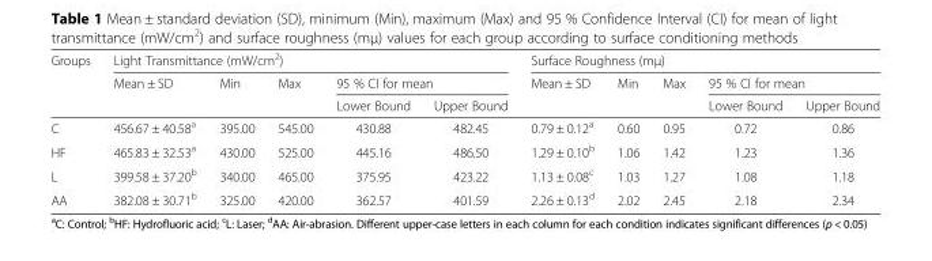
<table><thead><tr><td rowspan="3">Groups</td><td colspan="5">Light Transmittance (mW/cm<sup>2</sup>)</td><td colspan="5">Surface Roughness (mμ)</td></tr><tr><td rowspan="2">Mean ± SD</td><td rowspan="2">Min</td><td rowspan="2">Max</td><td colspan="2">95 % CI for mean</td><td rowspan="2">Mean ± SD</td><td rowspan="2">Min</td><td rowspan="2">Max</td><td colspan="2">95 % CI for mean</td></tr><tr><td>Lower Bound</td><td>Upper Bound</td><td>Lower Bound</td><td>Upper Bound</td></tr></thead><tbody><tr><td>C</td><td>456.67 ± 40.58<sup>a</sup></td><td>395.00</td><td>545.00</td><td>430.88</td><td>482.45</td><td>0.79 ± 0.12<sup>a</sup></td><td>0.60</td><td>0.95</td><td>0.72</td><td>0.86</td></tr><tr><td>HF</td><td>465.83 ± 32.53<sup>a</sup></td><td>430.00</td><td>525.00</td><td>445.16</td><td>486.50</td><td>1.29 ± 0.10<sup>b</sup></td><td>1.06</td><td>1.42</td><td>1.23</td><td>1.36</td></tr><tr><td>L</td><td>399.58 ± 37.20<sup>b</sup></td><td>340.00</td><td>465.00</td><td>375.95</td><td>423.22</td><td>1.13 ± 0.08<sup>c</sup></td><td>1.03</td><td>1.27</td><td>1.08</td><td>1.18</td></tr><tr><td>AA</td><td>382.08 ± 30.71<sup>b</sup></td><td>325.00</td><td>420.00</td><td>362.57</td><td>401.59</td><td>2.26 ± 0.13<sup>d</sup></td><td>2.02</td><td>2.45</td><td>2.18</td><td>2.34</td></tr></tbody></table>